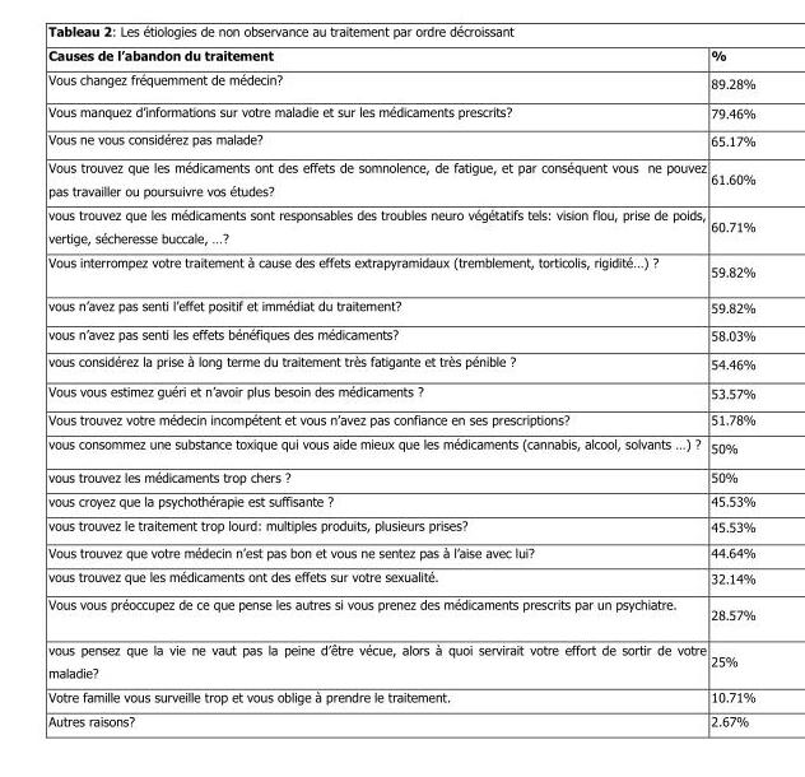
<table><thead><tr><td>Causes de l’abandon du traitement</td><td>%</td></tr></thead><tbody><tr><td>Vous changez fréquemment de médecin?</td><td>89.28%</td></tr><tr><td>Vous manquez d’informations sur votre maladie et sur les médicaments prescrits?</td><td>79.46%</td></tr><tr><td>Vous ne vous considérez pas malade?</td><td>65.17%</td></tr><tr><td>Vous trouvez que les médicaments ont des effets de somnolence, de fatigue, et par conséquent vous ne pouvez pas travailler ou poursuivre vos études?</td><td>61.60%</td></tr><tr><td>vous trouvez que les médicaments sont responsables des troubles neuro végétatifs tels: vision flou, prise de poids, vertige, sécheresse buccale, …?</td><td>60.71%</td></tr><tr><td>Vous interrompez votre traitement à cause des effets extrapyramidaux (tremblement, torticolis, rigidité…) ?</td><td>59.82%</td></tr><tr><td>vous n’avez pas senti l’effet positif et immédiat du traitement?</td><td>59.82%</td></tr><tr><td>vous n’avez pas senti les effets bénéfiques des médicaments?</td><td>58.03%</td></tr><tr><td>vous considérez la prise à long terme du traitement très fatigante et très pénible ?</td><td>54.46%</td></tr><tr><td>Vous vous estimez guéri et n’avoir plus besoin des médicaments ?</td><td>53.57%</td></tr><tr><td>Vous trouvez votre médecin incompétent et vous n’avez pas confiance en ses prescriptions?</td><td>51.78%</td></tr><tr><td>vous consommez une substance toxique qui vous aide mieux que les médicaments (cannabis, alcool, solvants …) ?</td><td>50%</td></tr><tr><td>vous trouvez les médicaments trop chers ?</td><td>50%</td></tr><tr><td>vous croyez que la psychothérapie est suffisante ?</td><td>45.53%</td></tr><tr><td>vous trouvez le traitement trop lourd: multiples produits, plusieurs prises?</td><td>45.53%</td></tr><tr><td>Vous trouvez que votre médecin n’est pas bon et vous ne sentez pas à l’aise avec lui?</td><td>44.64%</td></tr><tr><td>vous trouvez que les médicaments ont des effets sur votre sexualité.</td><td>32.14%</td></tr><tr><td>Vous vous préoccupez de ce que pense les autres si vous prenez des médicaments prescrits par un psychiatre.</td><td>28.57%</td></tr><tr><td>vous pensez que la vie ne vaut pas la peine d’être vécue, alors à quoi servirait votre effort de sortir de votre maladie?</td><td>25%</td></tr><tr><td>Votre famille vous surveille trop et vous oblige à prendre le traitement.</td><td>10.71%</td></tr><tr><td>Autres raisons?</td><td>2.67%</td></tr></tbody></table>